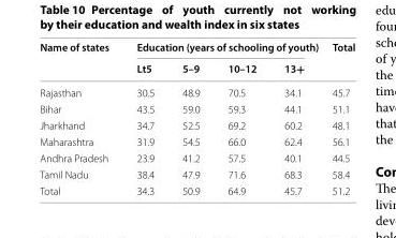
<table><thead><tr><td rowspan="2">Name of states</td><td colspan="4">Education (years of schooling of youth)</td><td rowspan="2">Total</td></tr><tr><td>Lt5</td><td>5–9</td><td>10–12</td><td>13+</td></tr></thead><tbody><tr><td>Rajasthan</td><td>30.5</td><td>48.9</td><td>70.5</td><td>34.1</td><td>45.7</td></tr><tr><td>Bihar</td><td>43.5</td><td>59.0</td><td>59.3</td><td>44.1</td><td>51.1</td></tr><tr><td>Jharkhand</td><td>34.7</td><td>52.5</td><td>69.2</td><td>60.2</td><td>48.1</td></tr><tr><td>Maharashtra</td><td>31.9</td><td>54.5</td><td>66.0</td><td>62.4</td><td>56.1</td></tr><tr><td>Andhra Pradesh</td><td>23.9</td><td>41.2</td><td>57.5</td><td>40.1</td><td>44.5</td></tr><tr><td>Tamil Nadu</td><td>38.4</td><td>47.9</td><td>71.6</td><td>68.3</td><td>58.4</td></tr><tr><td>Total</td><td>34.3</td><td>50.9</td><td>64.9</td><td>45.7</td><td>51.2</td></tr></tbody></table>